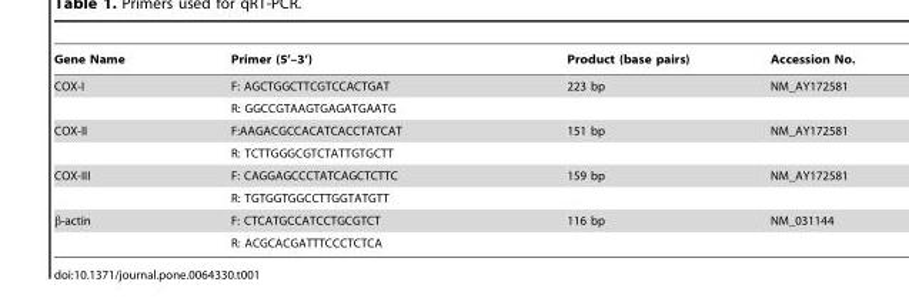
<table><thead><tr><td>Gene Name</td><td>Primer (5’–3’)</td><td>Product (base pairs)</td><td>Accession No.</td></tr></thead><tbody><tr><td rowspan="2">COX-I</td><td>F: AGCTGGCTTCGTCCACTGAT</td><td>223 bp</td><td>NM_AY172581</td></tr><tr><td>R: GGCCGTAAGTGAGATGAATG</td><td></td><td></td></tr><tr><td rowspan="2">COX-II</td><td>F:AAGACGCCACATCACCTATCAT</td><td>151 bp</td><td>NM_AY172581</td></tr><tr><td>R: TCTTGGGCGTCTATTGTGCTT</td><td></td><td></td></tr><tr><td rowspan="2">COX-III</td><td>F: CAGGAGCCCTATCAGCTCTTC</td><td>159 bp</td><td>NM_AY172581</td></tr><tr><td>R: TGTGGTGGCCTTGGTATGTT</td><td></td><td></td></tr><tr><td rowspan="2">β-actin</td><td>F: CTCATGCCATCCTGCGTCT</td><td>116 bp</td><td>NM_031144</td></tr><tr><td>R: ACGCACGATTTCCCTCTCA</td><td></td><td></td></tr></tbody></table>